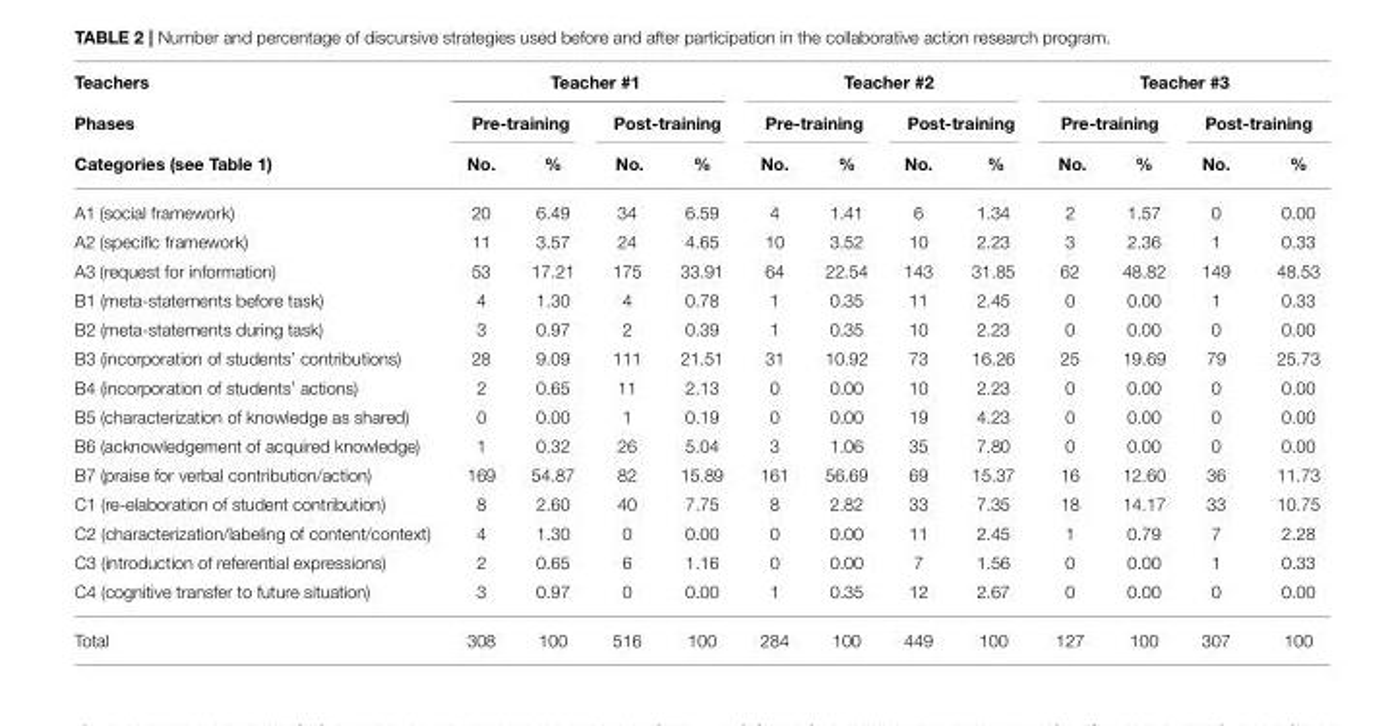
<table><thead><tr><td rowspan="3">Teachers Phases Categories (see Table 1)</td><td colspan="4">Teacher #1</td><td colspan="4">Teacher #2</td><td colspan="4">Teacher #3</td></tr><tr><td colspan="2">Pre-training</td><td colspan="2">Post-training</td><td colspan="2">Pre-training</td><td colspan="2">Post-training</td><td colspan="2">Pre-training</td><td colspan="2">Post-training</td></tr><tr><td>No.</td><td>%</td><td>No.</td><td>%</td><td>No.</td><td>%</td><td>No.</td><td>%</td><td>No.</td><td>%</td><td>No.</td><td>%</td></tr></thead><tbody><tr><td>A1 (social framework)</td><td>20</td><td>6.49</td><td>34</td><td>6.59</td><td>4</td><td>1.41</td><td>6</td><td>1.34</td><td>2</td><td>1.57</td><td>0</td><td>0.00</td></tr><tr><td>A2 (specific framework)</td><td>11</td><td>3.57</td><td>24</td><td>4.65</td><td>10</td><td>3.52</td><td>10</td><td>2.23</td><td>3</td><td>2.36</td><td>1</td><td>0.33</td></tr><tr><td>A3 (request for information)</td><td>53</td><td>17.21</td><td>175</td><td>33.91</td><td>64</td><td>22.54</td><td>143</td><td>31.85</td><td>62</td><td>48.82</td><td>149</td><td>48.53</td></tr><tr><td>B1 (meta-statements before task)</td><td>4</td><td>1.30</td><td>4</td><td>0.78</td><td>1</td><td>0.35</td><td>11</td><td>2.45</td><td>0</td><td>0.00</td><td>1</td><td>0.33</td></tr><tr><td>B2 (meta-statements during task)</td><td>3</td><td>0.97</td><td>2</td><td>0.39</td><td>1</td><td>0.35</td><td>10</td><td>2.23</td><td>0</td><td>0.00</td><td>0</td><td>0.00</td></tr><tr><td>B3 (incorporation of students’ contributions)</td><td>28</td><td>9.09</td><td>111</td><td>21.51</td><td>31</td><td>10.92</td><td>73</td><td>16.26</td><td>25</td><td>19.69</td><td>79</td><td>25.73</td></tr><tr><td>B4 (incorporation of students’ actions)</td><td>2</td><td>0.65</td><td>11</td><td>2.13</td><td>0</td><td>0.00</td><td>10</td><td>2.23</td><td>0</td><td>0.00</td><td>0</td><td>0.00</td></tr><tr><td>B5 (characterization of knowledge as shared)</td><td>0</td><td>0.00</td><td>1</td><td>0.19</td><td>0</td><td>0.00</td><td>19</td><td>4.23</td><td>0</td><td>0.00</td><td>0</td><td>0.00</td></tr><tr><td>B6 (acknowledgement of acquired knowledge)</td><td>1</td><td>0.32</td><td>26</td><td>5.04</td><td>3</td><td>1.06</td><td>35</td><td>7.80</td><td>0</td><td>0.00</td><td>0</td><td>0.00</td></tr><tr><td>B7 (praise for verbal contribution/action)</td><td>169</td><td>54.87</td><td>82</td><td>15.89</td><td>161</td><td>56.69</td><td>69</td><td>15.37</td><td>16</td><td>12.60</td><td>36</td><td>11.73</td></tr><tr><td>C1 (re-elaboration of student contribution)</td><td>8</td><td>2.60</td><td>40</td><td>7.75</td><td>8</td><td>2.82</td><td>33</td><td>7.35</td><td>18</td><td>14.17</td><td>33</td><td>10.75</td></tr><tr><td>C2 (characterization/labeling of content/context)</td><td>4</td><td>1.30</td><td>0</td><td>0.00</td><td>0</td><td>0.00</td><td>11</td><td>2.45</td><td>1</td><td>0.79</td><td>7</td><td>2.28</td></tr><tr><td>C3 (introduction of referential expressions)</td><td>2</td><td>0.65</td><td>6</td><td>1.16</td><td>0</td><td>0.00</td><td>7</td><td>1.56</td><td>0</td><td>0.00</td><td>1</td><td>0.33</td></tr><tr><td>C4 (cognitive transfer to future situation)</td><td>3</td><td>0.97</td><td>0</td><td>0.00</td><td>1</td><td>0.35</td><td>12</td><td>2.67</td><td>0</td><td>0.00</td><td>0</td><td>0.00</td></tr><tr><td>Total</td><td>308</td><td>100</td><td>516</td><td>100</td><td>284</td><td>100</td><td>449</td><td>100</td><td>127</td><td>100</td><td>307</td><td>100</td></tr></tbody></table>